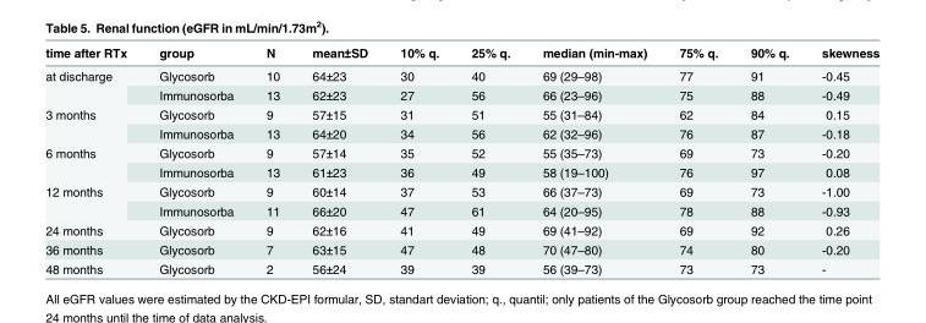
<table><thead><tr><td>time after RTx</td><td>group</td><td>N</td><td>mean±SD</td><td>10% q.</td><td>25% q.</td><td>median (min-max)</td><td>75% q.</td><td>90% q.</td><td>skewness</td></tr></thead><tbody><tr><td rowspan="2">at discharge</td><td>Glycosorb</td><td>10</td><td>64±23</td><td>30</td><td>40</td><td>69 (29–98)</td><td>77</td><td>91</td><td>-0.45</td></tr><tr><td>Immunosorba</td><td>13</td><td>62±23</td><td>27</td><td>56</td><td>66 (23–96)</td><td>75</td><td>88</td><td>-0.49</td></tr><tr><td rowspan="2">3 months</td><td>Glycosorb</td><td>9</td><td>57±15</td><td>31</td><td>51</td><td>55 (31–84)</td><td>62</td><td>84</td><td>0.15</td></tr><tr><td>Immunosorba</td><td>13</td><td>64±20</td><td>34</td><td>56</td><td>62 (32–96)</td><td>76</td><td>87</td><td>-0.18</td></tr><tr><td rowspan="2">6 months</td><td>Glycosorb</td><td>9</td><td>57±14</td><td>35</td><td>52</td><td>55 (35–73)</td><td>69</td><td>73</td><td>-0.20</td></tr><tr><td>Immunosorba</td><td>13</td><td>61±23</td><td>36</td><td>49</td><td>58 (19–100)</td><td>76</td><td>97</td><td>0.08</td></tr><tr><td rowspan="2">12 months</td><td>Glycosorb</td><td>9</td><td>60±14</td><td>37</td><td>53</td><td>66 (37–73)</td><td>69</td><td>73</td><td>-1.00</td></tr><tr><td>Immunosorba</td><td>11</td><td>66±20</td><td>47</td><td>61</td><td>64 (20–95)</td><td>78</td><td>88</td><td>-0.93</td></tr><tr><td>24 months</td><td>Glycosorb</td><td>9</td><td>62±16</td><td>41</td><td>49</td><td>69 (41–92)</td><td>69</td><td>92</td><td>0.26</td></tr><tr><td>36 months</td><td>Glycosorb</td><td>7</td><td>63±15</td><td>47</td><td>48</td><td>70 (47–80)</td><td>74</td><td>80</td><td>-0.20</td></tr><tr><td>48 months</td><td>Glycosorb</td><td>2</td><td>56±24</td><td>39</td><td>39</td><td>56 (39–73)</td><td>73</td><td>73</td><td>-</td></tr></tbody></table>